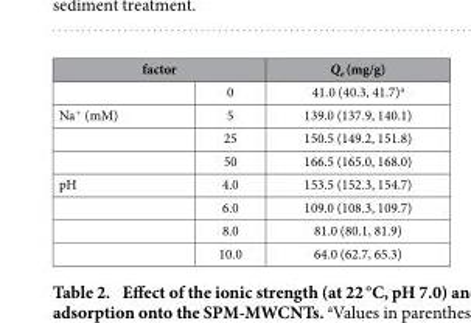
<table><thead><tr><td colspan="2">factor</td><td rowspan="2">Q<sub>e</sub> (mg/g) 41.0 (40.3, 41.7)<sup>a</sup></td></tr><tr><td></td><td>0</td></tr></thead><tbody><tr><td rowspan="3">Na<sup>+</sup> (mM)</td><td>5</td><td>139.0 (137.9, 140.1)</td></tr><tr><td>25</td><td>150.5 (149.2, 151.8)</td></tr><tr><td>50</td><td>166.5 (165.0, 168.0)</td></tr><tr><td rowspan="4">pH</td><td>4.0</td><td>153.5 (152.3, 154.7)</td></tr><tr><td>6.0</td><td>109.0 (108.3, 109.7)</td></tr><tr><td>8.0</td><td>81.0 (80.1, 81.9)</td></tr><tr><td>10.0</td><td>64.0 (62.7, 65.3)</td></tr></tbody></table>